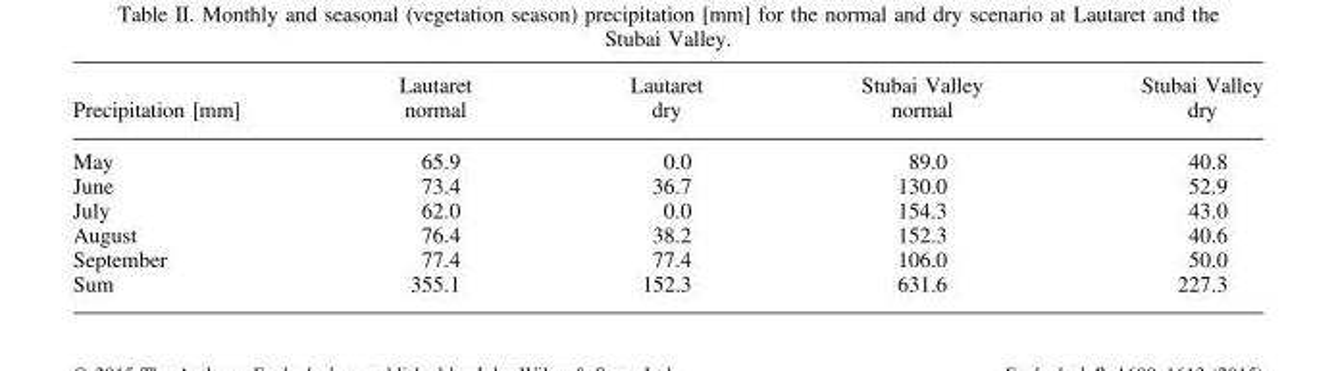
<table><thead><tr><td rowspan="2">Precipitation [mm]</td><td rowspan="2">Lautaret normal</td><td rowspan="2">Lautaret dry</td><td rowspan="2">Stubai Valley normal</td><td rowspan="2">Stubai Valley dry</td></tr><tr></tr></thead><tbody><tr><td>May</td><td>65.9</td><td>0.0</td><td>89.0</td><td>40.8</td></tr><tr><td>June</td><td>73.4</td><td>36.7</td><td>130.0</td><td>52.9</td></tr><tr><td>July</td><td>62.0</td><td>0.0</td><td>154.3</td><td>43.0</td></tr><tr><td>August</td><td>76.4</td><td>38.2</td><td>152.3</td><td>40.6</td></tr><tr><td>September</td><td>77.4</td><td>77.4</td><td>106.0</td><td>50.0</td></tr><tr><td>Sum</td><td>355.1</td><td>152.3</td><td>631.6</td><td>227.3</td></tr></tbody></table>